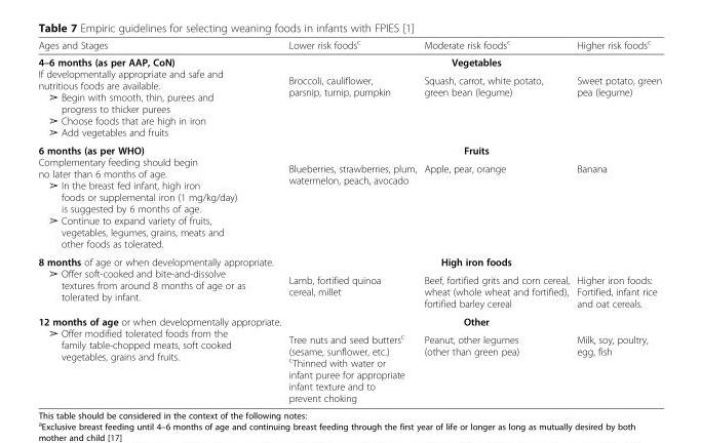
<table><thead><tr><td>Ages and Stages</td><td>Lower risk foods<sup>c</sup></td><td>Moderate risk foods<sup>c</sup></td><td>Higher risk foods<sup>c</sup></td></tr></thead><tbody><tr><td rowspan="2">4–6 months (as per AAP, CoN) If developmentally appropriate and safe and nutritious foods are available. ➢ Begin with smooth, thin, purees and progress to thicker purees ➢ Choose foods that are high in iron ➢ Add vegetables and fruits</td><td colspan="3">Vegetables</td></tr><tr><td>Broccoli, cauliflower, parsnip, turnip, pumpkin</td><td>Squash, carrot, white potato, green bean (legume)</td><td>Sweet potato, green pea (legume)</td></tr><tr><td rowspan="2">6 months (as per WHO) Complementary feeding should begin no later than 6 months of age. ➢ In the breast fed infant, high iron foods or supplemental iron (1 mg/kg/day) is suggested by 6 months of age. ➢ Continue to expand variety of fruits, vegetables, legumes, grains, meats and other foods as tolerated.</td><td colspan="3">Fruits</td></tr><tr><td>Blueberries, strawberries, plum, watermelon, peach, avocado</td><td>Apple, pear, orange</td><td>Banana</td></tr><tr><td rowspan="2">8 months of age or when developmentally appropriate. ➢ Offer soft-cooked and bite-and-dissolve textures from around 8 months of age or as tolerated by infant.</td><td colspan="3">High iron foods</td></tr><tr><td>Lamb, fortified quinoa cereal, millet</td><td>Beef, fortified grits and corn cereal, wheat (whole wheat and fortified), fortified barley cereal</td><td>Higher iron foods: Fortified, infant rice and oat cereals.</td></tr><tr><td rowspan="2">12 months of age or when developmentally appropriate. ➢ Offer modified tolerated foods from the family table-chopped meats, soft cooked vegetables, grains and fruits.</td><td colspan="3">Other</td></tr><tr><td>Tree nuts and seed butters<sup>c</sup> (sesame, sunflower, etc.) <sup>c</sup>Thinned with water or infant puree for appropriate infant texture and to prevent choking</td><td>Peanut, other legumes (other than green pea)</td><td>Milk, soy, poultry, egg, fish</td></tr></tbody></table>